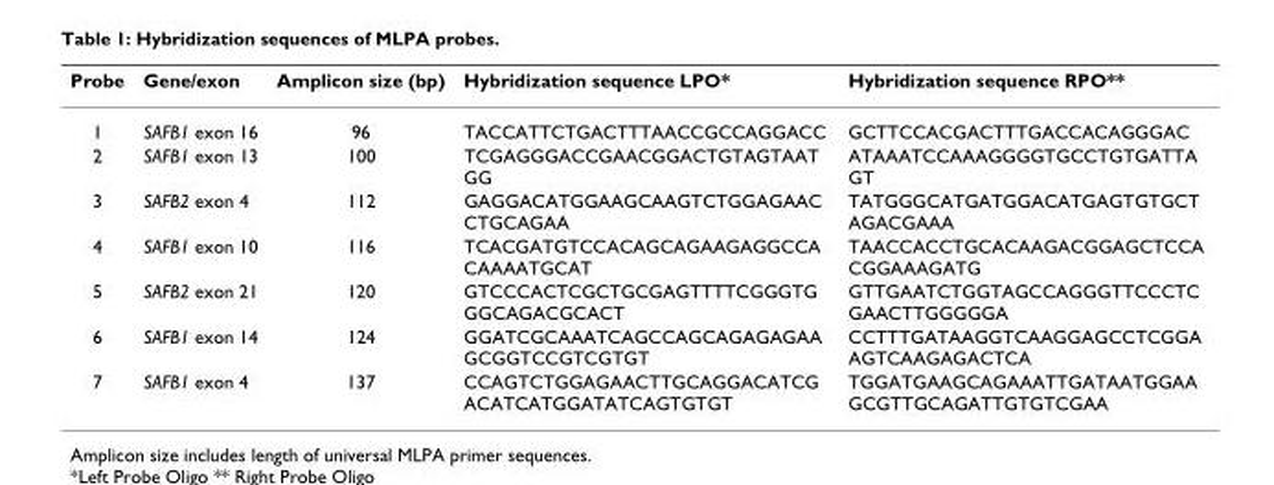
<table><thead><tr><td>Probe</td><td>Gene/exon</td><td>Amplicon size (bp)</td><td>Hybridization sequence LPO*</td><td>Hybridization sequence RPO**</td></tr></thead><tbody><tr><td>1</td><td>SAFB1 exon 16</td><td>96</td><td>TACCATTCTGACTTTAACCGCCAGGACC</td><td>GCTTCCACGACTTTGACCACAGGGAC</td></tr><tr><td>2</td><td>SAFB1 exon 13</td><td>100</td><td>TCGAGGGACCGAACGGACTGTAGTAAT GG</td><td>ATAAATCCAAAGGGGTGCCTGTGATTA GT</td></tr><tr><td>3</td><td>SAFB2 exon 4</td><td>112</td><td>GAGGACATGGAAGCAAGTCTGGAGAAC CTGCAGAA</td><td>TATGGGCATGATGGACATGAGTGTGCT AGACGAAA</td></tr><tr><td>4</td><td>SAFB1 exon 10</td><td>116</td><td>TCACGATGTCCACAGCAGAAGAGGCCA CAAAATGCAT</td><td>TAACCACCTGCACAAGACGGAGCTCCA CGGAAAGATG</td></tr><tr><td>5</td><td>SAFB2 exon 21</td><td>120</td><td>GTCCCACTCGCTGCGAGTTTTCGGGTG GGCAGACGCACT</td><td>GTTGAATCTGGTAGCCAGGGTTCCCTC GAACTTGGGGGA</td></tr><tr><td>6</td><td>SAFB1 exon 14</td><td>124</td><td>GGATCGCAAATCAGCCAGCAGAGAGAA GCGGTCCGTCGTGT</td><td>CCTTTGATAAGGTCAAGGAGCCTCGGA AGTCAAGAGACTCA</td></tr><tr><td>7</td><td>SAFB1 exon 4</td><td>137</td><td>CCAGTCTGGAGAACTTGCAGGACATCG ACATCATGGATATCAGTGTGT</td><td>TGGATGAAGCAGAAATTGATAATGGAA GCGTTGCAGATTGTGTCGAA</td></tr></tbody></table>